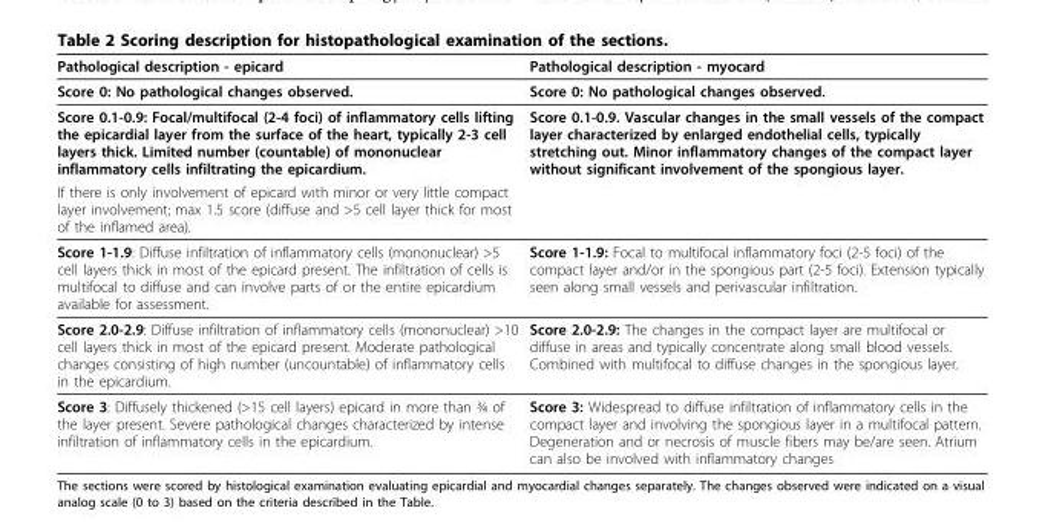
<table><thead><tr><td>Pathological description - epicard</td><td>Pathological description - myocard</td></tr></thead><tbody><tr><td>Score 0: No pathological changes observed.</td><td>Score 0: No pathological changes observed.</td></tr><tr><td>Score 0.1-0.9: Focal/multifocal (2-4 foci) of inflammatory cells lifting the epicardial layer from the surface of the heart, typically 2-3 cell layers thick. Limited number (countable) of mononuclear inflammatory cells infiltrating the epicardium.</td><td>Score 0.1-0.9. Vascular changes in the small vessels of the compact layer characterized by enlarged endothelial cells, typically stretching out. Minor inflammatory changes of the compact layer without significant involvement of the spongious layer.</td></tr><tr><td colspan="2">If there is only involvement of epicard with minor or very little compact layer involvement; max 1.5 score (diffuse and &gt;5 cell layer thick for most of the inflamed area).</td></tr><tr><td>Score 1-1.9: Diffuse infiltration of inflammatory cells (mononuclear) &gt;5 cell layers thick in most of the epicard present. The infiltration of cells is multifocal to diffuse and can involve parts of or the entire epicardium available for assessment.</td><td>Score 1-1.9: Focal to multifocal inflammatory foci (2-5 foci) of the compact layer and/or in the spongious part (2-5 foci). Extension typically seen along small vessels and perivascular infiltration.</td></tr><tr><td>Score 2.0-2.9: Diffuse infiltration of inflammatory cells (mononuclear) &gt;10 cell layers thick in most of the epicard present. Moderate pathological changes consisting of high number (uncountable) of inflammatory cells in the epicardium.</td><td>Score 2.0-2.9: The changes in the compact layer are multifocal or diffuse in areas and typically concentrate along small blood vessels. Combined with multifocal to diffuse changes in the spongious layer.</td></tr><tr><td>Score 3: Diffusely thickened (&gt;15 cell layers) epicard in more than ¾ of the layer present. Severe pathological changes characterized by intense infiltration of inflammatory cells in the epicardium.</td><td>Score 3: Widespread to diffuse infiltration of inflammatory cells in the compact layer and involving the spongious layer in a multifocal pattern. Degeneration and or necrosis of muscle fibers may be/are seen. Atrium can also be involved with inflammatory changes</td></tr></tbody></table>